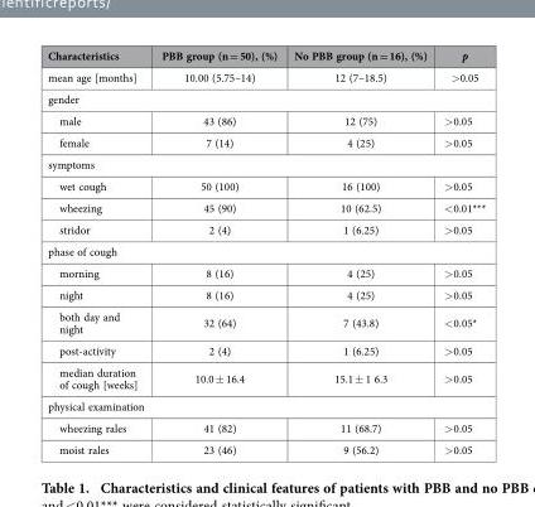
<table><thead><tr><td rowspan="2">Characteristics mean age [months]</td><td rowspan="2">PBB group (n = 50), (%) 10.00 (5.75–14)</td><td rowspan="2">No PBB group (n = 16), (%) 12 (7–18.5)</td><td rowspan="2">p &gt;0.05</td></tr><tr></tr></thead><tbody><tr><td colspan="4">gender</td></tr><tr><td>male</td><td>43 (86)</td><td>12 (75)</td><td>&gt; 0.05</td></tr><tr><td>female</td><td>7 (14)</td><td>4 (25)</td><td>&gt; 0.05</td></tr><tr><td colspan="4">symptoms</td></tr><tr><td>wet cough</td><td>50 (100)</td><td>16 (100)</td><td>&gt; 0.05</td></tr><tr><td>wheezing</td><td>45 (90)</td><td>10 (62.5)</td><td>&lt; 0.01***</td></tr><tr><td>stridor</td><td>2 (4)</td><td>1 (6.25)</td><td>&gt; 0.05</td></tr><tr><td colspan="4">phase of cough</td></tr><tr><td>morning</td><td>8 (16)</td><td>4 (25)</td><td>&gt; 0.05</td></tr><tr><td>night</td><td>8 (16)</td><td>4 (25)</td><td>&gt; 0.05</td></tr><tr><td>both day and night</td><td>32 (64)</td><td>7 (43.8)</td><td>&lt; 0.05*</td></tr><tr><td>post-activity</td><td>2 (4)</td><td>1 (6.25)</td><td>&gt; 0.05</td></tr><tr><td>median duration of cough [weeks]</td><td>10.0 ± 16.4</td><td>15.1 ± 1 6.3</td><td>&gt; 0.05</td></tr><tr><td colspan="4">physical examination</td></tr><tr><td>wheezing rales</td><td>41 (82)</td><td>11 (68.7)</td><td>&gt; 0.05</td></tr><tr><td>moist rales</td><td>23 (46)</td><td>9 (56.2)</td><td>&gt; 0.05</td></tr></tbody></table>